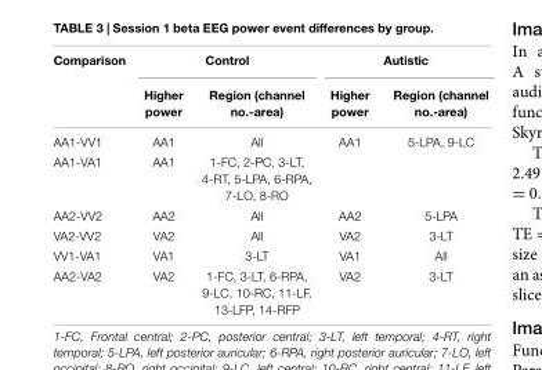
<table><thead><tr><td rowspan="2">Comparison</td><td colspan="2">Control</td><td colspan="2">Autistic</td></tr><tr><td>Higher power</td><td>Region (channel no.-area)</td><td>Higher power</td><td>Region (channel no.-area)</td></tr></thead><tbody><tr><td>AA1-VV1</td><td>AA1</td><td>All</td><td>AA1</td><td>5-LPA, 9-LC</td></tr><tr><td>AA1-VA1</td><td>AA1</td><td>1-FC, 2-PC, 3-LT, 4-RT, 5-LPA, 6-RPA, 7-LO, 8-RO</td><td></td><td></td></tr><tr><td>AA2-VV2</td><td>AA2</td><td>All</td><td>AA2</td><td>5-LPA</td></tr><tr><td>VA2-VV2</td><td>VA2</td><td>All</td><td>VA2</td><td>3-LT</td></tr><tr><td>VV1-VA1</td><td>VA1</td><td>3-LT</td><td>VA1</td><td>All</td></tr><tr><td>AA2-VA2</td><td>VA2</td><td>1-FC, 3-LT, 6-RPA, 9-LC, 10-RC, 11-LF, 13-LFP, 14-RFP</td><td>VA2</td><td>3-LT</td></tr></tbody></table>